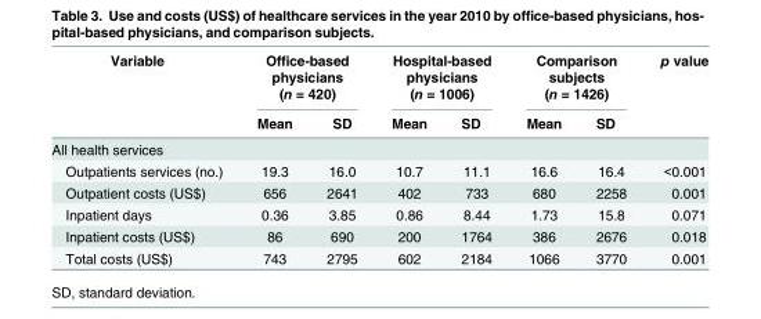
<table><thead><tr><td rowspan="2">Variable</td><td colspan="2">Office-based physicians (n = 420)</td><td colspan="2">Hospital-based physicians (n = 1006)</td><td colspan="2">Comparison subjects (n = 1426)</td><td rowspan="2">p value</td></tr><tr><td>Mean</td><td>SD</td><td>Mean</td><td>SD</td><td>Mean</td><td>SD</td></tr></thead><tbody><tr><td colspan="8">All health services</td></tr><tr><td>Outpatients services (no.)</td><td>19.3</td><td>16.0</td><td>10.7</td><td>11.1</td><td>16.6</td><td>16.4</td><td>&lt;0.001</td></tr><tr><td>Outpatient costs (US$)</td><td>656</td><td>2641</td><td>402</td><td>733</td><td>680</td><td>2258</td><td>0.001</td></tr><tr><td>Inpatient days</td><td>0.36</td><td>3.85</td><td>0.86</td><td>8.44</td><td>1.73</td><td>15.8</td><td>0.071</td></tr><tr><td>Inpatient costs (US$)</td><td>86</td><td>690</td><td>200</td><td>1764</td><td>386</td><td>2676</td><td>0.018</td></tr><tr><td>Total costs (US$)</td><td>743</td><td>2795</td><td>602</td><td>2184</td><td>1066</td><td>3770</td><td>0.001</td></tr></tbody></table>